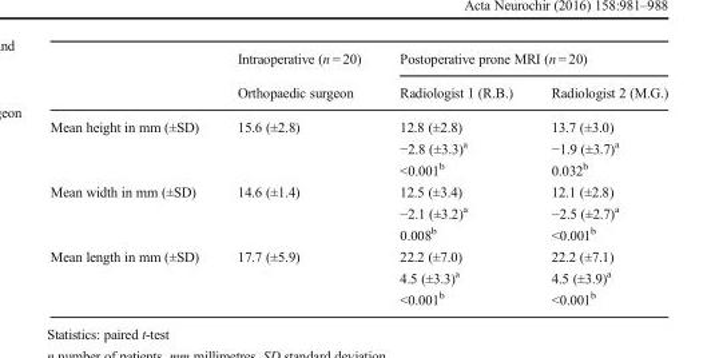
<table><thead><tr><td rowspan="2"></td><td rowspan="2">Intraoperative (n = 20) Orthopaedic surgeon</td><td colspan="2">Postoperative prone MRI (n = 20)</td></tr><tr><td>Radiologist 1 (R.B.)</td><td>Radiologist 2 (M.G.)</td></tr></thead><tbody><tr><td>Mean height in mm (±SD)</td><td>15.6 (±2.8)</td><td>12.8 (±2.8) −2.8 (±3.3)<sup>a</sup> &lt;0.001<sup>b</sup></td><td>13.7 (±3.0) −1.9 (±3.7)<sup>a</sup> 0.032<sup>b</sup></td></tr><tr><td>Mean width in mm (±SD)</td><td>14.6 (±1.4)</td><td>12.5 (±3.4) −2.1 (±3.2)<sup>a</sup> 0.008<sup>b</sup></td><td>12.1 (±2.8) −2.5 (±2.7)<sup>a</sup> &lt;0.001<sup>b</sup></td></tr><tr><td>Mean length in mm (±SD)</td><td>17.7 (±5.9)</td><td>22.2 (±7.0) 4.5 (±3.3)<sup>a</sup> &lt;0.001<sup>b</sup></td><td>22.2 (±7.1) 4.5 (±3.9)<sup>a</sup> &lt;0.001<sup>b</sup></td></tr></tbody></table>